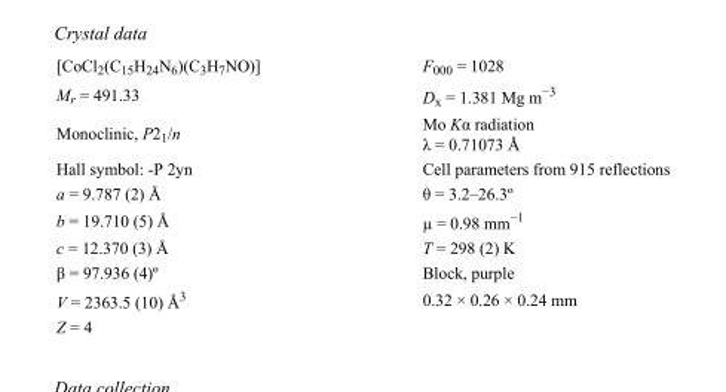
<table><tbody><tr><td>[CoCl<sub>2</sub>(C<sub>15</sub>H<sub>24</sub>N<sub>6</sub>)(C<sub>3</sub>H<sub>7</sub>NO)]</td><td>F<sub>000</sub> = 1028</td></tr><tr><td>M<sub>r</sub> = 491.33</td><td>D<sub>x</sub> = 1.381 Mg m<sup>−3</sup></td></tr><tr><td>Monoclinic, P2<sub>1</sub>/n</td><td>Mo Kα radiation λ = 0.71073 Å</td></tr><tr><td>Hall symbol: -P 2yn</td><td>Cell parameters from 915 reflections</td></tr><tr><td>a = 9.787 (2) Å</td><td>θ = 3.2–26.3º</td></tr><tr><td>b = 19.710 (5) Å</td><td>µ = 0.98 mm<sup>−1</sup></td></tr><tr><td>c = 12.370 (3) Å</td><td>T = 298 (2) K</td></tr><tr><td>β = 97.936 (4)º</td><td>Block, purple</td></tr><tr><td>V = 2363.5 (10) Å<sup>3</sup></td><td>0.32 × 0.26 × 0.24 mm</td></tr><tr><td>Z = 4</td><td></td></tr></tbody></table>